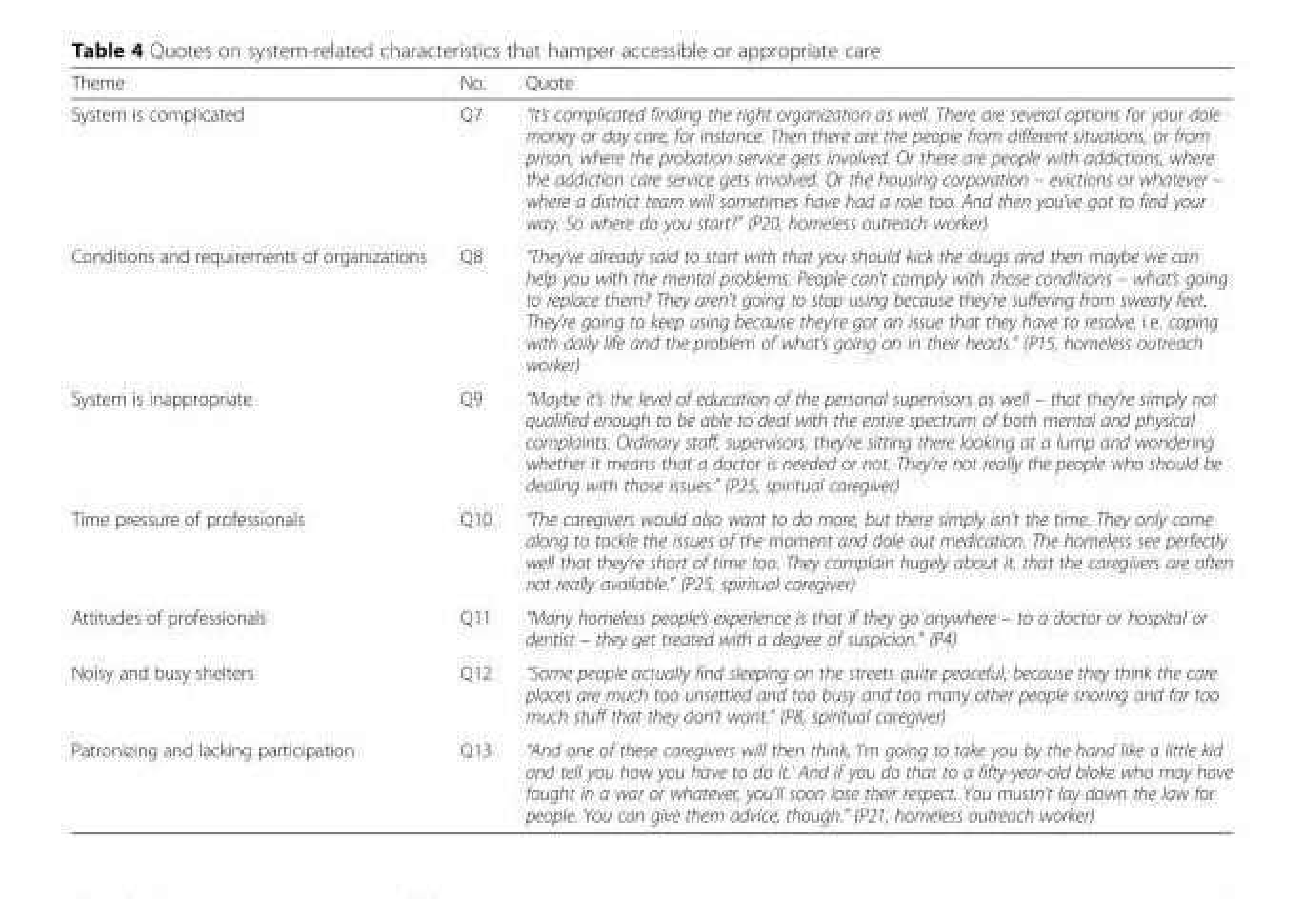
<table><thead><tr><td>Theme</td><td>No.</td><td>Quote</td></tr></thead><tbody><tr><td>System is complicated</td><td>Q7</td><td>“It’s complicated finding the right organization as well. There are several options for your dole money or day care, for instance. Then there are the people from different situations, or from prison, where the probation service gets involved. Or there are people with addictions, where the addiction care service gets involved. Or the housing corporation – evictions or whatever – where a district team will sometimes have had a role too. And then you’ve got to find your way. So where do you start?” (P20, homeless outreach worker)</td></tr><tr><td>Conditions and requirements of organizations</td><td>Q8</td><td>“They’ve already said to start with that you should kick the drugs and then maybe we can help you with the mental problems. People can’t comply with those conditions – what’s going to replace them? They aren’t going to stop using because they’re suffering from sweaty feet. They’re going to keep using because they’re got an issue that they have to resolve, i.e. coping with daily life and the problem of what’s going on in their heads.” (P15, homeless outreach worker)</td></tr><tr><td>System is inappropriate</td><td>Q9</td><td>“Maybe it’s the level of education of the personal supervisors as well – that they’re simply not qualified enough to be able to deal with the entire spectrum of both mental and physical complaints. Ordinary staff, supervisors, they’re sitting there looking at a lump and wondering whether it means that a doctor is needed or not. They’re not really the people who should be dealing with those issues.” (P25, spiritual caregiver)</td></tr><tr><td>Time pressure of professionals</td><td>Q10</td><td>“The caregivers would also want to do more, but there simply isn’t the time. They only come along to tackle the issues of the moment and dole out medication. The homeless see perfectly well that they’re short of time too. They complain hugely about it, that the caregivers are often not really available.” (P25, spiritual caregiver)</td></tr><tr><td>Attitudes of professionals</td><td>Q11</td><td>“Many homeless people’s experience is that if they go anywhere – to a doctor or hospital or dentist – they get treated with a degree of suspicion.” (P4)</td></tr><tr><td>Noisy and busy shelters</td><td>Q12</td><td>“Some people actually find sleeping on the streets quite peaceful, because they think the care places are much too unsettled and too busy and too many other people snoring and far too much stuff that they don’t want.” (P8, spiritual caregiver)</td></tr><tr><td>Patronizing and lacking participation</td><td>Q13</td><td>“And one of these caregivers will then think, ‘I’m going to take you by the hand like a little kid and tell you how you have to do it.’ And if you do that to a fifty-year-old bloke who may have fought in a war or whatever, you’ll soon lose their respect. You mustn’t lay down the law for people. You can give them advice, though.” (P21, homeless outreach worker)</td></tr></tbody></table>